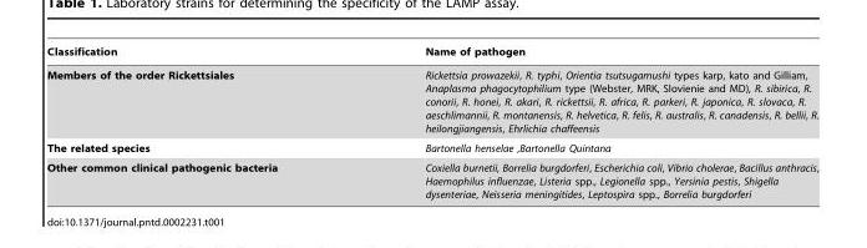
<table><thead><tr><td>Classification</td><td>Name of pathogen</td></tr></thead><tbody><tr><td>Members of the order Rickettsiales</td><td>Rickettsia prowazekii, R. typhi, Orientia tsutsugamushi types karp, kato and Gilliam, Anaplasma phagocytophilium type (Webster, MRK, Slovienie and MD), R. sibirica, R. conorii, R. honei, R. akari, R. rickettsii, R. africa, R. parkeri, R. japonica, R. slovaca, R. aeschlimannii, R. montanensis, R. helvetica, R. felis, R. australis, R. canadensis, R. bellii, R. heilongjiangensis, Ehrlichia chaffeensis</td></tr><tr><td>The related species</td><td>Bartonella henselae ,Bartonella Quintana</td></tr><tr><td>Other common clinical pathogenic bacteria</td><td>Coxiella burnetii, Borrelia burgdorferi, Escherichia coli, Vibrio cholerae, Bacillus anthracis, Haemophilus influenzae, Listeria spp., Legionella spp., Yersinia pestis, Shigella dysenteriae, Neisseria meningitides, Leptospira spp., Borrelia burgdorferi</td></tr></tbody></table>